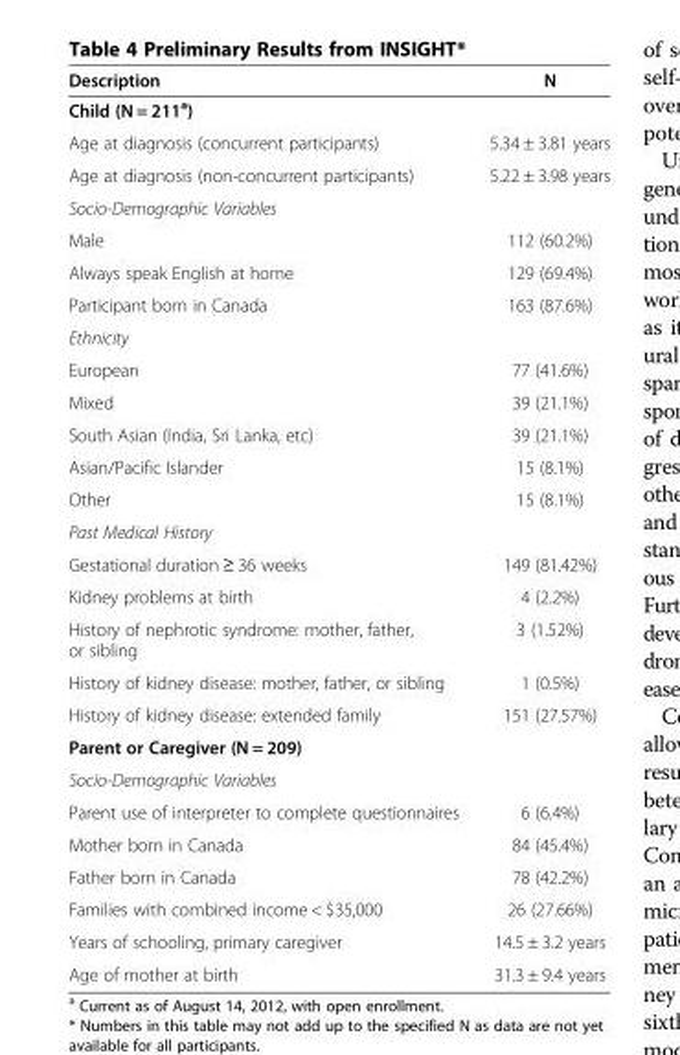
<table><thead><tr><td>Description</td><td>N</td></tr></thead><tbody><tr><td colspan="2">Child (N = 211<sup>a</sup>)</td></tr><tr><td>Age at diagnosis (concurrent participants)</td><td>5.34 ± 3.81 years</td></tr><tr><td>Age at diagnosis (non-concurrent participants)</td><td>5.22 ± 3.98 years</td></tr><tr><td colspan="2">Socio-Demographic Variables</td></tr><tr><td>Male</td><td>112 (60.2%)</td></tr><tr><td>Always speak English at home</td><td>129 (69.4%)</td></tr><tr><td>Participant born in Canada</td><td>163 (87.6%)</td></tr><tr><td colspan="2">Ethnicity</td></tr><tr><td>European</td><td>77 (41.6%)</td></tr><tr><td>Mixed</td><td>39 (21.1%)</td></tr><tr><td>South Asian (India, Sri Lanka, etc)</td><td>39 (21.1%)</td></tr><tr><td>Asian/Pacific Islander</td><td>15 (8.1%)</td></tr><tr><td>Other</td><td>15 (8.1%)</td></tr><tr><td colspan="2">Past Medical History</td></tr><tr><td>Gestational duration ≥ 36 weeks</td><td>149 (81.42%)</td></tr><tr><td>Kidney problems at birth</td><td>4 (2.2%)</td></tr><tr><td>History of nephrotic syndrome: mother, father, or sibling</td><td>3 (1.52%)</td></tr><tr><td>History of kidney disease: mother, father, or sibling</td><td>1 (0.5%)</td></tr><tr><td>History of kidney disease: extended family</td><td>151 (27.57%)</td></tr><tr><td colspan="2">Parent or Caregiver (N = 209)</td></tr><tr><td colspan="2">Socio-Demographic Variables</td></tr><tr><td>Parent use of interpreter to complete questionnaires</td><td>6 (6.4%)</td></tr><tr><td>Mother born in Canada</td><td>84 (45.4%)</td></tr><tr><td>Father born in Canada</td><td>78 (42.2%)</td></tr><tr><td>Families with combined income &lt; $35,000</td><td>26 (27.66%)</td></tr><tr><td>Years of schooling, primary caregiver</td><td>14.5 ± 3.2 years</td></tr><tr><td>Age of mother at birth</td><td>31.3 ± 9.4 years</td></tr></tbody></table>